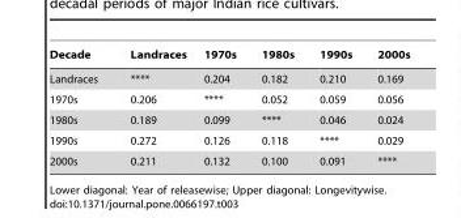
<table><thead><tr><td>Decade</td><td>Landraces</td><td>1970s</td><td>1980s</td><td>1990s</td><td>2000s</td></tr></thead><tbody><tr><td>Landraces</td><td>****</td><td>0.204</td><td>0.182</td><td>0.210</td><td>0.169</td></tr><tr><td>1970s</td><td>0.206</td><td>****</td><td>0.052</td><td>0.059</td><td>0.056</td></tr><tr><td>1980s</td><td>0.189</td><td>0.099</td><td>****</td><td>0.046</td><td>0.024</td></tr><tr><td>1990s</td><td>0.272</td><td>0.126</td><td>0.118</td><td>****</td><td>0.029</td></tr><tr><td>2000s</td><td>0.211</td><td>0.132</td><td>0.100</td><td>0.091</td><td>****</td></tr></tbody></table>